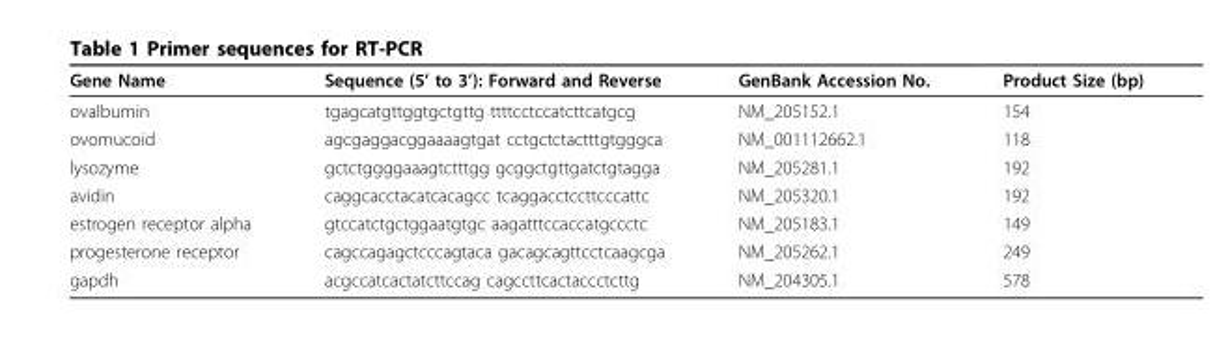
<table><thead><tr><td>Gene Name</td><td>Sequence (5’ to 3’): Forward and Reverse</td><td>GenBank Accession No.</td><td>Product Size (bp)</td></tr></thead><tbody><tr><td>ovalbumin</td><td>tgagcatgttggtgctgttg ttttcctccatcttcatgcg</td><td>NM_205152.1</td><td>154</td></tr><tr><td>ovomucoid</td><td>agcgaggacggaaaagtgat cctgctctactttgtgggca</td><td>NM_001112662.1</td><td>118</td></tr><tr><td>lysozyme</td><td>gctctggggaaagtctttgg gcggctgttgatctgtagga</td><td>NM_205281.1</td><td>192</td></tr><tr><td>avidin</td><td>caggcacctacatcacagcc tcaggacctccttcccattc</td><td>NM_205320.1</td><td>192</td></tr><tr><td>estrogen receptor alpha</td><td>gtccatctgctggaatgtgc aagatttccaccatgccctc</td><td>NM_205183.1</td><td>149</td></tr><tr><td>progesterone receptor</td><td>cagccagagctcccagtaca gacagcagttcctcaagcga</td><td>NM_205262.1</td><td>249</td></tr><tr><td>gapdh</td><td>acgccatcactatcttccag cagccttcactaccctcttg</td><td>NM_204305.1</td><td>578</td></tr></tbody></table>